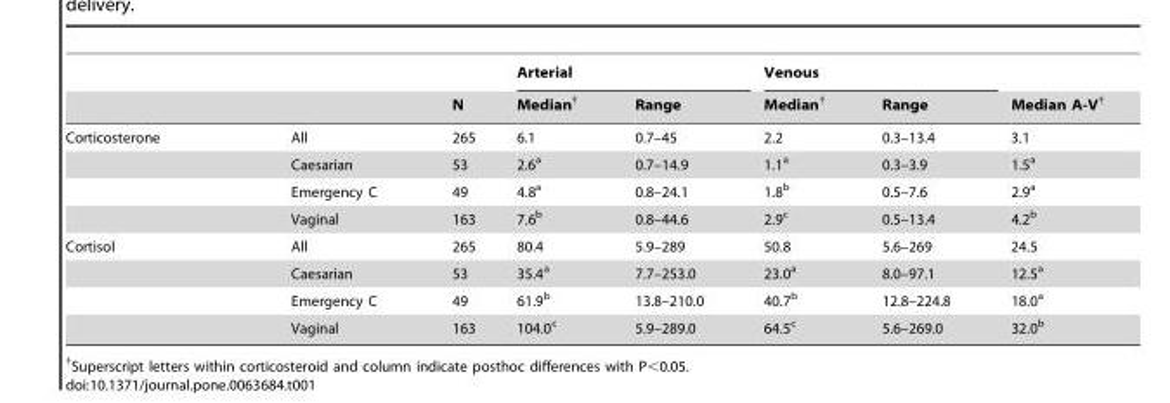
<table><thead><tr><td rowspan="2"></td><td rowspan="2"></td><td rowspan="2">N</td><td colspan="2">Arterial</td><td colspan="2">Venous</td><td rowspan="2">Median A-V†</td></tr><tr><td>Median†</td><td>Range</td><td>Median†</td><td>Range</td></tr></thead><tbody><tr><td rowspan="4">Corticosterone</td><td>All</td><td>265</td><td>6.1</td><td>0.7–45</td><td>2.2</td><td>0.3–13.4</td><td>3.1</td></tr><tr><td>Caesarian</td><td>53</td><td>2.6<sup>a</sup></td><td>0.7–14.9</td><td>1.1<sup>a</sup></td><td>0.3–3.9</td><td>1.5<sup>a</sup></td></tr><tr><td>Emergency C</td><td>49</td><td>4.8<sup>a</sup></td><td>0.8–24.1</td><td>1.8<sup>b</sup></td><td>0.5–7.6</td><td>2.9<sup>a</sup></td></tr><tr><td>Vaginal</td><td>163</td><td>7.6<sup>b</sup></td><td>0.8–44.6</td><td>2.9<sup>c</sup></td><td>0.5–13.4</td><td>4.2<sup>b</sup></td></tr><tr><td rowspan="4">Cortisol</td><td>All</td><td>265</td><td>80.4</td><td>5.9–289</td><td>50.8</td><td>5.6–269</td><td>24.5</td></tr><tr><td>Caesarian</td><td>53</td><td>35.4<sup>a</sup></td><td>7.7–253.0</td><td>23.0<sup>a</sup></td><td>8.0–97.1</td><td>12.5<sup>a</sup></td></tr><tr><td>Emergency C</td><td>49</td><td>61.9<sup>b</sup></td><td>13.8–210.0</td><td>40.7<sup>b</sup></td><td>12.8–224.8</td><td>18.0<sup>a</sup></td></tr><tr><td>Vaginal</td><td>163</td><td>104.0<sup>c</sup></td><td>5.9–289.0</td><td>64.5<sup>c</sup></td><td>5.6–269.0</td><td>32.0<sup>b</sup></td></tr></tbody></table>